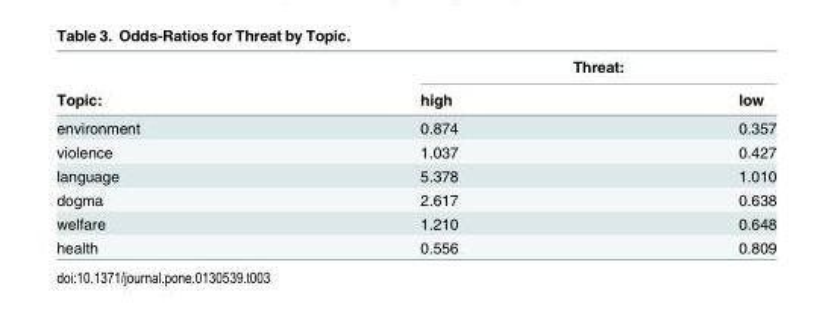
<table><thead><tr><td rowspan="2">Topic:</td><td colspan="2">Threat:</td></tr><tr><td>high</td><td>low</td></tr></thead><tbody><tr><td>environment</td><td>0.874</td><td>0.357</td></tr><tr><td>violence</td><td>1.037</td><td>0.427</td></tr><tr><td>language</td><td>5.378</td><td>1.010</td></tr><tr><td>dogma</td><td>2.617</td><td>0.638</td></tr><tr><td>welfare</td><td>1.210</td><td>0.648</td></tr><tr><td>health</td><td>0.556</td><td>0.809</td></tr></tbody></table>